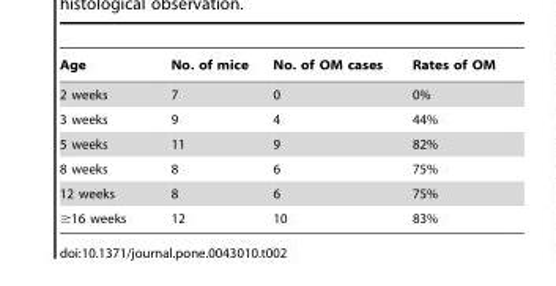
<table><thead><tr><td>Age</td><td>No. of mice</td><td>No. of OM cases</td><td>Rates of OM</td></tr></thead><tbody><tr><td>2 weeks</td><td>7</td><td>0</td><td>0%</td></tr><tr><td>3 weeks</td><td>9</td><td>4</td><td>44%</td></tr><tr><td>5 weeks</td><td>11</td><td>9</td><td>82%</td></tr><tr><td>8 weeks</td><td>8</td><td>6</td><td>75%</td></tr><tr><td>12 weeks</td><td>8</td><td>6</td><td>75%</td></tr><tr><td>≥16 weeks</td><td>12</td><td>10</td><td>83%</td></tr></tbody></table>